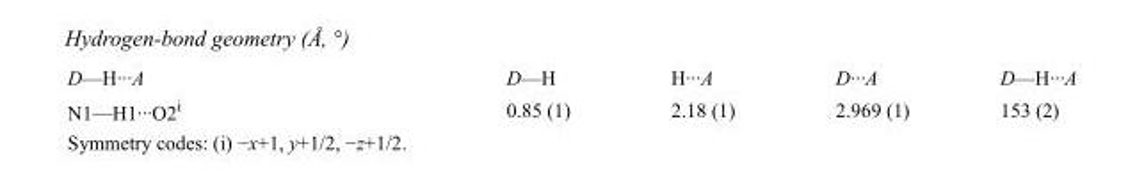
<table><tbody><tr><td>D—H···A</td><td>D—H</td><td>H···A</td><td>D···A</td><td>D—H···A</td></tr><tr><td>N1—H1···O2<sup>i</sup></td><td>0.85 (1)</td><td>2.18 (1)</td><td>2.969 (1)</td><td>153 (2)</td></tr></tbody></table>